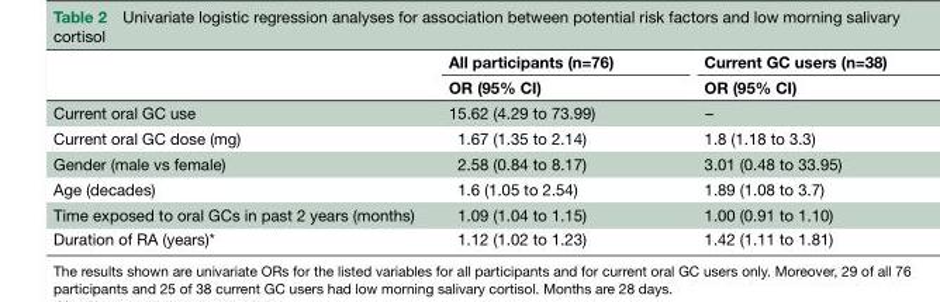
<table><thead><tr><td rowspan="2"></td><td rowspan="2">All participants (n=76) OR (95% CI)</td><td rowspan="2">Current GC users (n=38) OR (95% CI)</td></tr><tr></tr></thead><tbody><tr><td>Current oral GC use</td><td>15.62 (4.29 to 73.99)</td><td>–</td></tr><tr><td>Current oral GC dose (mg)</td><td>1.67 (1.35 to 2.14)</td><td>1.8 (1.18 to 3.3)</td></tr><tr><td>Gender (male vs female)</td><td>2.58 (0.84 to 8.17)</td><td>3.01 (0.48 to 33.95)</td></tr><tr><td>Age (decades)</td><td>1.6 (1.05 to 2.54)</td><td>1.89 (1.08 to 3.7)</td></tr><tr><td>Time exposed to oral GCs in past 2 years (months)</td><td>1.09 (1.04 to 1.15)</td><td>1.00 (0.91 to 1.10)</td></tr><tr><td>Duration of RA (years)*</td><td>1.12 (1.02 to 1.23)</td><td>1.42 (1.11 to 1.81)</td></tr></tbody></table>